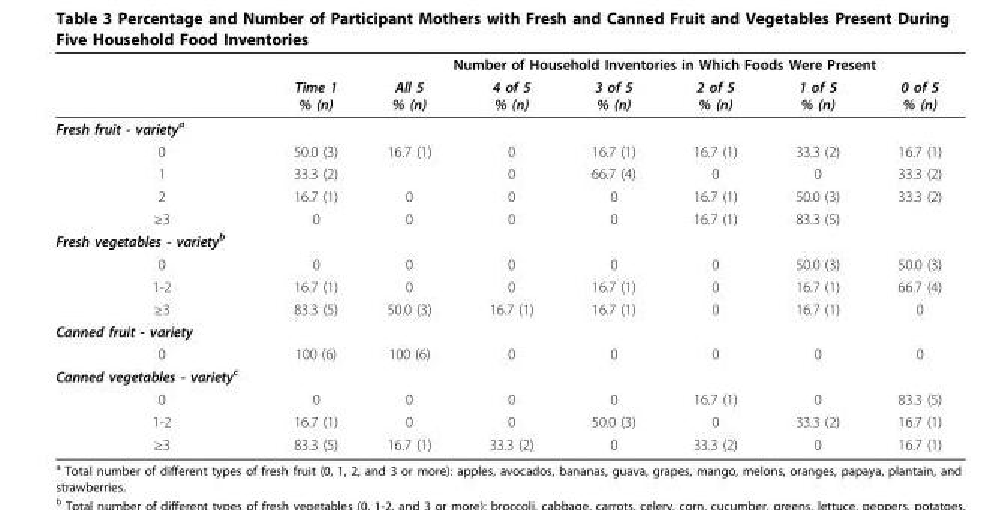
<table><thead><tr><td rowspan="2"></td><td rowspan="2">Time 1 % (n)</td><td colspan="6">Number of Household Inventories in Which Foods Were Present</td></tr><tr><td>All 5 % (n)</td><td>4 of 5 % (n)</td><td>3 of 5 % (n)</td><td>2 of 5 % (n)</td><td>1 of 5 % (n)</td><td>0 of 5 % (n)</td></tr></thead><tbody><tr><td colspan="8">Fresh fruit - variety<sup>a</sup></td></tr><tr><td>0</td><td>50.0 (3)</td><td>16.7 (1)</td><td>0</td><td>16.7 (1)</td><td>16.7 (1)</td><td>33.3 (2)</td><td>16.7 (1)</td></tr><tr><td>1</td><td>33.3 (2)</td><td></td><td>0</td><td>66.7 (4)</td><td>0</td><td>0</td><td>33.3 (2)</td></tr><tr><td>2</td><td>16.7 (1)</td><td>0</td><td>0</td><td>0</td><td>16.7 (1)</td><td>50.0 (3)</td><td>33.3 (2)</td></tr><tr><td>≥3</td><td>0</td><td>0</td><td>0</td><td>0</td><td>16.7 (1)</td><td>83.3 (5)</td><td></td></tr><tr><td colspan="8">Fresh vegetables - variety<sup>b</sup></td></tr><tr><td>0</td><td>0</td><td>0</td><td>0</td><td>0</td><td>0</td><td>50.0 (3)</td><td>50.0 (3)</td></tr><tr><td>1-2</td><td>16.7 (1)</td><td>0</td><td>0</td><td>16.7 (1)</td><td>0</td><td>16.7 (1)</td><td>66.7 (4)</td></tr><tr><td>≥3</td><td>83.3 (5)</td><td>50.0 (3)</td><td>16.7 (1)</td><td>16.7 (1)</td><td>0</td><td>16.7 (1)</td><td>0</td></tr><tr><td colspan="8">Canned fruit - variety</td></tr><tr><td>0</td><td>100 (6)</td><td>100 (6)</td><td>0</td><td>0</td><td>0</td><td>0</td><td>0</td></tr><tr><td colspan="8">Canned vegetables - variety<sup>c</sup></td></tr><tr><td>0</td><td>0</td><td>0</td><td>0</td><td>0</td><td>16.7 (1)</td><td>0</td><td>83.3 (5)</td></tr><tr><td>1-2</td><td>16.7 (1)</td><td>0</td><td>0</td><td>50.0 (3)</td><td>0</td><td>33.3 (2)</td><td>16.7 (1)</td></tr><tr><td>≥3</td><td>83.3 (5)</td><td>16.7 (1)</td><td>33.3 (2)</td><td>0</td><td>33.3 (2)</td><td>0</td><td>16.7 (1)</td></tr></tbody></table>